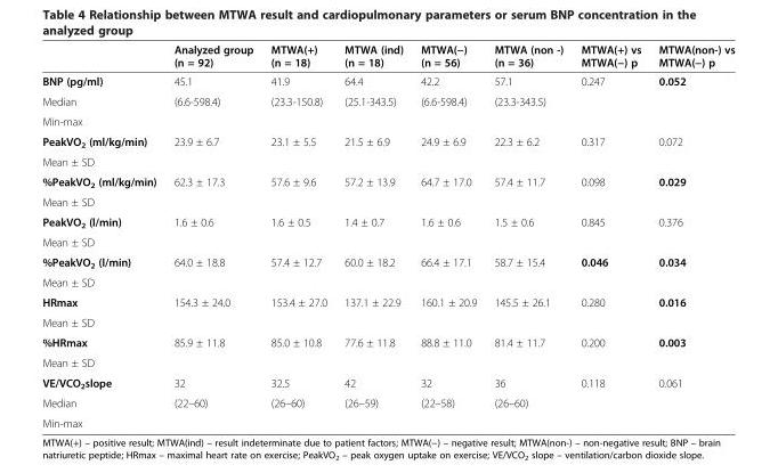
<table><thead><tr><td></td><td>Analyzed group (n = 92)</td><td>MTWA(+) (n = 18)</td><td>MTWA (ind) (n = 18)</td><td>MTWA(−) (n = 56)</td><td>MTWA (non -) (n = 36)</td><td>MTWA(+) vs MTWA(−) p</td><td>MTWA(non-) vs MTWA(−) p</td></tr></thead><tbody><tr><td>BNP (pg/ml)</td><td>45.1</td><td>41.9</td><td>64.4</td><td>42.2</td><td>57.1</td><td>0.247</td><td>0.052</td></tr><tr><td>Median</td><td>(6.6-598.4)</td><td>(23.3-150.8)</td><td>(25.1-343.5)</td><td>(6.6-598.4)</td><td>(23.3-343.5)</td><td></td><td></td></tr><tr><td colspan="8">Min-max</td></tr><tr><td>PeakVO<sub>2</sub> (ml/kg/min)</td><td>23.9 ± 6.7</td><td>23.1 ± 5.5</td><td>21.5 ± 6.9</td><td>24.9 ± 6.9</td><td>22.3 ± 6.2</td><td>0.317</td><td>0.072</td></tr><tr><td colspan="8">Mean ± SD</td></tr><tr><td>%PeakVO<sub>2</sub> (ml/kg/min)</td><td>62.3 ± 17.3</td><td>57.6 ± 9.6</td><td>57.2 ± 13.9</td><td>64.7 ± 17.0</td><td>57.4 ± 11.7</td><td>0.098</td><td>0.029</td></tr><tr><td colspan="8">Mean ± SD</td></tr><tr><td>PeakVO<sub>2</sub> (l/min)</td><td>1.6 ± 0.6</td><td>1.6 ± 0.5</td><td>1.4 ± 0.7</td><td>1.6 ± 0.6</td><td>1.5 ± 0.6</td><td>0.845</td><td>0.376</td></tr><tr><td colspan="8">Mean ± SD</td></tr><tr><td>%PeakVO<sub>2</sub> (l/min)</td><td>64.0 ± 18.8</td><td>57.4 ± 12.7</td><td>60.0 ± 18.2</td><td>66.4 ± 17.1</td><td>58.7 ± 15.4</td><td>0.046</td><td>0.034</td></tr><tr><td colspan="8">Mean ± SD</td></tr><tr><td>HRmax</td><td>154.3 ± 24.0</td><td>153.4 ± 27.0</td><td>137.1 ± 22.9</td><td>160.1 ± 20.9</td><td>145.5 ± 26.1</td><td>0.280</td><td>0.016</td></tr><tr><td colspan="8">Mean ± SD</td></tr><tr><td>%HRmax</td><td>85.9 ± 11.8</td><td>85.0 ± 10.8</td><td>77.6 ± 11.8</td><td>88.8 ± 11.0</td><td>81.4 ± 11.7</td><td>0.200</td><td>0.003</td></tr><tr><td colspan="8">Mean ± SD</td></tr><tr><td>VE/VCO<sub>2</sub>slope</td><td>32</td><td>32.5</td><td>42</td><td>32</td><td>36</td><td>0.118</td><td>0.061</td></tr><tr><td>Median</td><td>(22–60)</td><td>(26–60)</td><td>(26–59)</td><td>(22–58)</td><td>(26–60)</td><td></td><td></td></tr><tr><td>Min-max</td><td></td><td></td><td></td><td></td><td></td><td></td><td></td></tr></tbody></table>